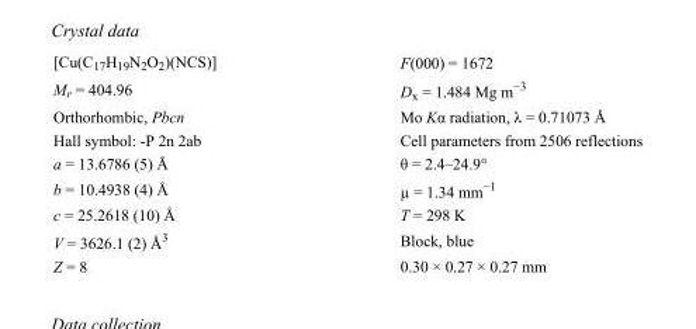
<table><tbody><tr><td>[Cu(C<sub>17</sub>H<sub>19</sub>N<sub>2</sub>O<sub>2</sub>)(NCS)]</td><td>F(000) = 1672</td></tr><tr><td>M<sub>r</sub> = 404.96</td><td>D<sub>x</sub> = 1.484 Mg m<sup>−3</sup></td></tr><tr><td>Orthorhombic, Pbcn</td><td>Mo Kα radiation, λ = 0.71073 Å</td></tr><tr><td>Hall symbol: -P 2n 2ab</td><td>Cell parameters from 2506 reflections</td></tr><tr><td>a = 13.6786 (5) Å</td><td>θ = 2.4–24.9°</td></tr><tr><td>b = 10.4938 (4) Å</td><td>µ = 1.34 mm<sup>−1</sup></td></tr><tr><td>c = 25.2618 (10) Å</td><td>T = 298 K</td></tr><tr><td>V = 3626.1 (2) Å<sup>3</sup></td><td>Block, blue</td></tr><tr><td>Z = 8</td><td>0.30 × 0.27 × 0.27 mm</td></tr></tbody></table>